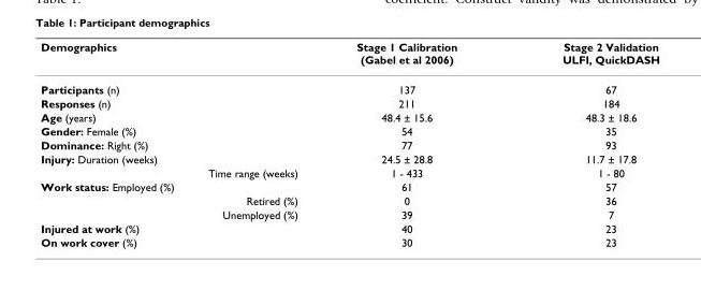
<table><thead><tr><td>Demographics</td><td>Stage 1 Calibration (Gabel et al 2006)</td><td>Stage 2 Validation ULFI, QuickDASH</td></tr></thead><tbody><tr><td>Participants (n)</td><td>137</td><td>67</td></tr><tr><td>Responses (n)</td><td>211</td><td>184</td></tr><tr><td>Age (years)</td><td>48.4 ± 15.6</td><td>48.3 ± 18.6</td></tr><tr><td>Gender: Female (%)</td><td>54</td><td>35</td></tr><tr><td>Dominance: Right (%)</td><td>77</td><td>93</td></tr><tr><td>Injury: Duration (weeks)</td><td>24.5 ± 28.8</td><td>11.7 ± 17.8</td></tr><tr><td>Time range (weeks)</td><td>1 - 433</td><td>1 - 80</td></tr><tr><td>Work status: Employed (%)</td><td>61</td><td>57</td></tr><tr><td>Retired (%)</td><td>0</td><td>36</td></tr><tr><td>Unemployed (%)</td><td>39</td><td>7</td></tr><tr><td>Injured at work (%)</td><td>40</td><td>23</td></tr><tr><td>On work cover (%)</td><td>30</td><td>23</td></tr></tbody></table>